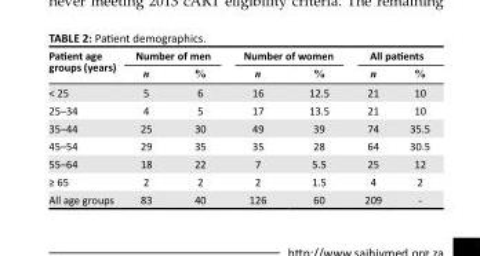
<table><thead><tr><td rowspan="2">Patient age groups (years)</td><td colspan="2">Number of men</td><td colspan="2">Number of women</td><td colspan="2">All patients</td></tr><tr><td>n</td><td>%</td><td>n</td><td>%</td><td>n</td><td>%</td></tr></thead><tbody><tr><td>&lt; 25</td><td>5</td><td>6</td><td>16</td><td>12.5</td><td>21</td><td>10</td></tr><tr><td>25–34</td><td>4</td><td>5</td><td>17</td><td>13.5</td><td>21</td><td>10</td></tr><tr><td>35–44</td><td>25</td><td>30</td><td>49</td><td>39</td><td>74</td><td>35.5</td></tr><tr><td>45–54</td><td>29</td><td>35</td><td>35</td><td>28</td><td>64</td><td>30.5</td></tr><tr><td>55–64</td><td>18</td><td>22</td><td>7</td><td>5.5</td><td>25</td><td>12</td></tr><tr><td>≥ 65</td><td>2</td><td>2</td><td>2</td><td>1.5</td><td>4</td><td>2</td></tr><tr><td>All age groups</td><td>83</td><td>40</td><td>126</td><td>60</td><td>209</td><td>-</td></tr></tbody></table>